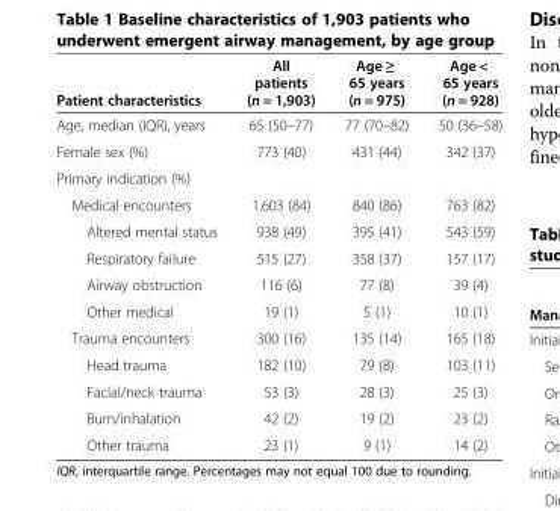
<table><thead><tr><td>Patient characteristics</td><td>All patients (n = 1,903)</td><td>Age ≥ 65 years (n = 975)</td><td>Age &lt; 65 years (n = 928)</td></tr></thead><tbody><tr><td>Age, median (IQR), years</td><td>65 (50–77)</td><td>77 (70–82)</td><td>50 (36–58)</td></tr><tr><td>Female sex (%)</td><td>773 (40)</td><td>431 (44)</td><td>342 (37)</td></tr><tr><td colspan="4">Primary indication (%)</td></tr><tr><td>Medical encounters</td><td>1,603 (84)</td><td>840 (86)</td><td>763 (82)</td></tr><tr><td>Altered mental status</td><td>938 (49)</td><td>395 (41)</td><td>543 (59)</td></tr><tr><td>Respiratory failure</td><td>515 (27)</td><td>358 (37)</td><td>157 (17)</td></tr><tr><td>Airway obstruction</td><td>116 (6)</td><td>77 (8)</td><td>39 (4)</td></tr><tr><td>Other medical</td><td>19 (1)</td><td>5 (1)</td><td>10 (1)</td></tr><tr><td>Trauma encounters</td><td>300 (16)</td><td>135 (14)</td><td>165 (18)</td></tr><tr><td>Head trauma</td><td>182 (10)</td><td>79 (8)</td><td>103 (11)</td></tr><tr><td>Facial/neck trauma</td><td>53 (3)</td><td>28 (3)</td><td>25 (3)</td></tr><tr><td>Burn/inhalation</td><td>42 (2)</td><td>19 (2)</td><td>23 (2)</td></tr><tr><td>Other trauma</td><td>23 (1)</td><td>9 (1)</td><td>14 (2)</td></tr></tbody></table>